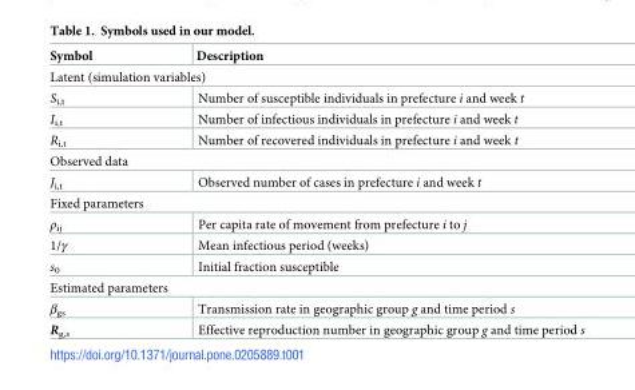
<table><thead><tr><td>Symbol</td><td>Description</td></tr></thead><tbody><tr><td colspan="2">Latent (simulation variables)</td></tr><tr><td>S<sub>i,t</sub></td><td>Number of susceptible individuals in prefecture i and week t</td></tr><tr><td>I<sub>i,t</sub></td><td>Number of infectious individuals in prefecture i and week t</td></tr><tr><td>R<sub>i,t</sub></td><td>Number of recovered individuals in prefecture i and week t</td></tr><tr><td colspan="2">Observed data</td></tr><tr><td>J<sub>i,t</sub></td><td>Observed number of cases in prefecture i and week t</td></tr><tr><td colspan="2">Fixed parameters</td></tr><tr><td>ρ<sub>ij</sub></td><td>Per capita rate of movement from prefecture i to j</td></tr><tr><td>1/γ</td><td>Mean infectious period (weeks)</td></tr><tr><td>s<sub>0</sub></td><td>Initial fraction susceptible</td></tr><tr><td colspan="2">Estimated parameters</td></tr><tr><td>β<sub>gs</sub></td><td>Transmission rate in geographic group g and time period s</td></tr><tr><td>R<sub>g,s</sub></td><td>Effective reproduction number in geographic group g and time period s</td></tr></tbody></table>